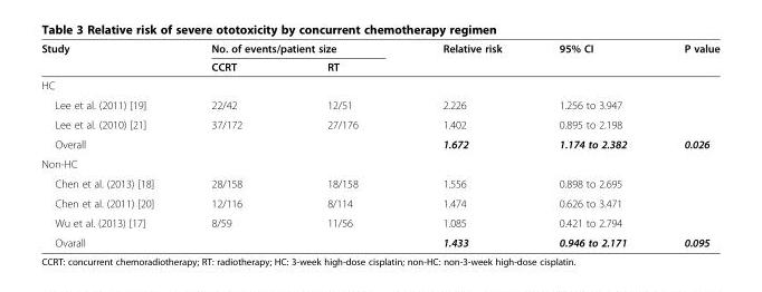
<table><thead><tr><td rowspan="2">Study</td><td colspan="2">No. of events/patient size</td><td rowspan="2">Relative risk</td><td rowspan="2">95% CI</td><td rowspan="2">P value</td></tr><tr><td>CCRT</td><td>RT</td></tr></thead><tbody><tr><td colspan="6">HC</td></tr><tr><td>Lee et al. (2011) [19]</td><td>22/42</td><td>12/51</td><td>2.226</td><td>1.256 to 3.947</td><td></td></tr><tr><td>Lee et al. (2010) [21]</td><td>37/172</td><td>27/176</td><td>1.402</td><td>0.895 to 2.198</td><td></td></tr><tr><td>Overall</td><td></td><td></td><td>1.672</td><td>1.174 to 2.382</td><td>0.026</td></tr><tr><td colspan="6">Non-HC</td></tr><tr><td>Chen et al. (2013) [18]</td><td>28/158</td><td>18/158</td><td>1.556</td><td>0.898 to 2.695</td><td></td></tr><tr><td>Chen et al. (2011) [20]</td><td>12/116</td><td>8/114</td><td>1.474</td><td>0.626 to 3.471</td><td></td></tr><tr><td>Wu et al. (2013) [17]</td><td>8/59</td><td>11/56</td><td>1.085</td><td>0.421 to 2.794</td><td></td></tr><tr><td>Ovarall</td><td></td><td></td><td>1.433</td><td>0.946 to 2.171</td><td>0.095</td></tr></tbody></table>